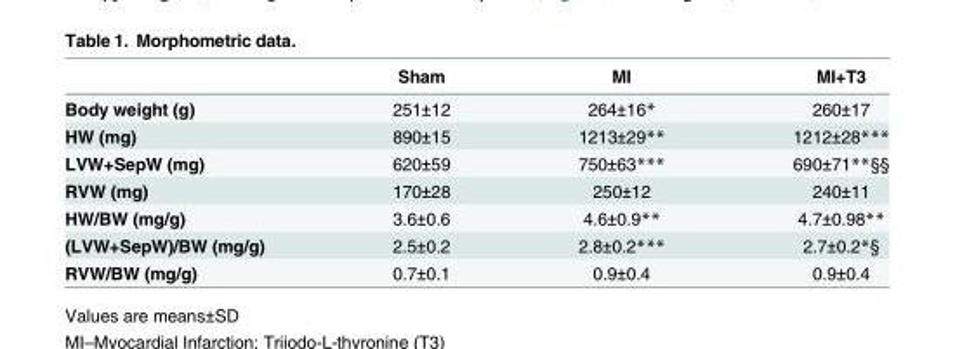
<table><thead><tr><td></td><td>Sham</td><td>MI</td><td>MI+T3</td></tr></thead><tbody><tr><td>Body weight (g)</td><td>251±12</td><td>264±16*</td><td>260±17</td></tr><tr><td>HW (mg)</td><td>890±15</td><td>1213±29**</td><td>1212±28***</td></tr><tr><td>LVW+SepW (mg)</td><td>620±59</td><td>750±63***</td><td>690±71**§§</td></tr><tr><td>RVW (mg)</td><td>170±28</td><td>250±12</td><td>240±11</td></tr><tr><td>HW/BW (mg/g)</td><td>3.6±0.6</td><td>4.6±0.9**</td><td>4.7±0.98**</td></tr><tr><td>(LVW+SepW)/BW (mg/g)</td><td>2.5±0.2</td><td>2.8±0.2***</td><td>2.7±0.2*§</td></tr><tr><td>RVW/BW (mg/g)</td><td>0.7±0.1</td><td>0.9±0.4</td><td>0.9±0.4</td></tr></tbody></table>